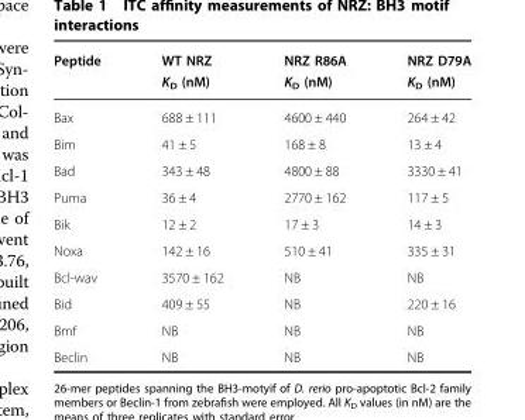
<table><thead><tr><td>Peptide</td><td>WT NRZ K<sub>D</sub> (nM)</td><td>NRZ R86A K<sub>D</sub> (nM)</td><td>NRZ D79A K<sub>D</sub> (nM)</td></tr></thead><tbody><tr><td>Bax</td><td>688 ± 111</td><td>4600 ± 440</td><td>264 ± 42</td></tr><tr><td>Bim</td><td>41 ± 5</td><td>168 ± 8</td><td>13 ± 4</td></tr><tr><td>Bad</td><td>343 ± 48</td><td>4800 ± 88</td><td>3330 ± 41</td></tr><tr><td>Puma</td><td>36 ± 4</td><td>2770 ± 162</td><td>117 ± 5</td></tr><tr><td>Bik</td><td>12 ± 2</td><td>17 ± 3</td><td>14 ± 3</td></tr><tr><td>Noxa</td><td>142 ± 16</td><td>510 ± 41</td><td>335 ± 31</td></tr><tr><td>Bcl-wav</td><td>3570 ± 162</td><td>NB</td><td>NB</td></tr><tr><td>Bid</td><td>409 ± 55</td><td>NB</td><td>220 ± 16</td></tr><tr><td>Bmf</td><td>NB</td><td>NB</td><td>NB</td></tr><tr><td>Beclin</td><td>NB</td><td>NB</td><td>NB</td></tr></tbody></table>